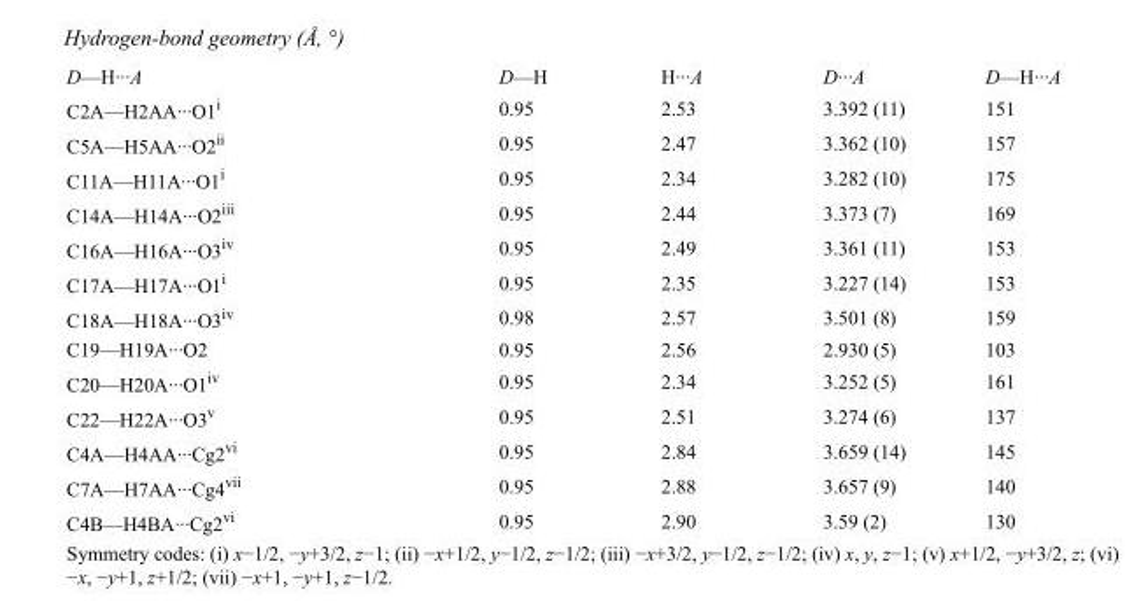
<table><tbody><tr><td>D—H···A</td><td>D—H</td><td>H···A</td><td>D···A</td><td>D—H···A</td></tr><tr><td>C2A—H2AA···O1<sup>i</sup></td><td>0.95</td><td>2.53</td><td>3.392 (11)</td><td>151</td></tr><tr><td>C5A—H5AA···O2<sup>ii</sup></td><td>0.95</td><td>2.47</td><td>3.362 (10)</td><td>157</td></tr><tr><td>C11A—H11A···O1<sup>i</sup></td><td>0.95</td><td>2.34</td><td>3.282 (10)</td><td>175</td></tr><tr><td>C14A—H14A···O2<sup>iii</sup></td><td>0.95</td><td>2.44</td><td>3.373 (7)</td><td>169</td></tr><tr><td>C16A—H16A···O3<sup>iv</sup></td><td>0.95</td><td>2.49</td><td>3.361 (11)</td><td>153</td></tr><tr><td>C17A—H17A···O1<sup>i</sup></td><td>0.95</td><td>2.35</td><td>3.227 (14)</td><td>153</td></tr><tr><td>C18A—H18A···O3<sup>iv</sup></td><td>0.98</td><td>2.57</td><td>3.501 (8)</td><td>159</td></tr><tr><td>C19—H19A···O2</td><td>0.95</td><td>2.56</td><td>2.930 (5)</td><td>103</td></tr><tr><td>C20—H20A···O1<sup>iv</sup></td><td>0.95</td><td>2.34</td><td>3.252 (5)</td><td>161</td></tr><tr><td>C22—H22A···O3<sup>v</sup></td><td>0.95</td><td>2.51</td><td>3.274 (6)</td><td>137</td></tr><tr><td>C4A—H4AA···Cg2<sup>vi</sup></td><td>0.95</td><td>2.84</td><td>3.659 (14)</td><td>145</td></tr><tr><td>C7A—H7AA···Cg4<sup>vii</sup></td><td>0.95</td><td>2.88</td><td>3.657 (9)</td><td>140</td></tr><tr><td>C4B—H4BA···Cg2<sup>vi</sup></td><td>0.95</td><td>2.90</td><td>3.59 (2)</td><td>130</td></tr></tbody></table>